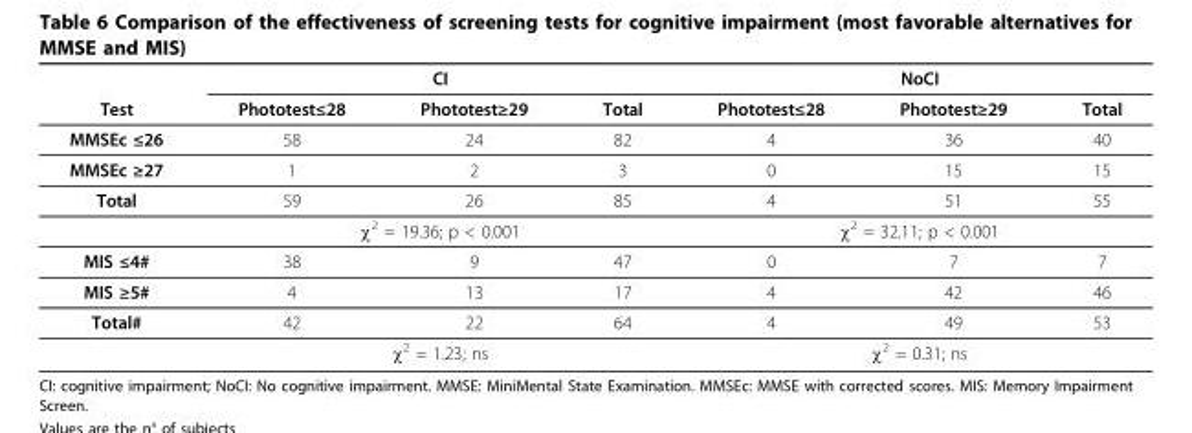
<table><thead><tr><td rowspan="2">Test</td><td colspan="3">CI</td><td colspan="3">NoCI</td></tr><tr><td>Phototest≤28</td><td>Phototest≥29</td><td>Total</td><td>Phototest≤28</td><td>Phototest≥29</td><td>Total</td></tr></thead><tbody><tr><td>MMSEc ≤26</td><td>58</td><td>24</td><td>82</td><td>4</td><td>36</td><td>40</td></tr><tr><td>MMSEc ≥27</td><td>1</td><td>2</td><td>3</td><td>0</td><td>15</td><td>15</td></tr><tr><td rowspan="2">Total</td><td>59</td><td>26</td><td>85</td><td>4</td><td>51</td><td>55</td></tr><tr><td colspan="3">χ<sup>2</sup> = 19.36; p &lt; 0.001</td><td colspan="3">χ<sup>2</sup> = 32.11; p &lt; 0.001</td></tr><tr><td>MIS ≤4#</td><td>38</td><td>9</td><td>47</td><td>0</td><td>7</td><td>7</td></tr><tr><td>MIS ≥5#</td><td>4</td><td>13</td><td>17</td><td>4</td><td>42</td><td>46</td></tr><tr><td rowspan="2">Total#</td><td>42</td><td>22</td><td>64</td><td>4</td><td>49</td><td>53</td></tr><tr><td colspan="3">χ<sup>2</sup> = 1.23; ns</td><td colspan="3">χ<sup>2</sup> = 0.31; ns</td></tr></tbody></table>